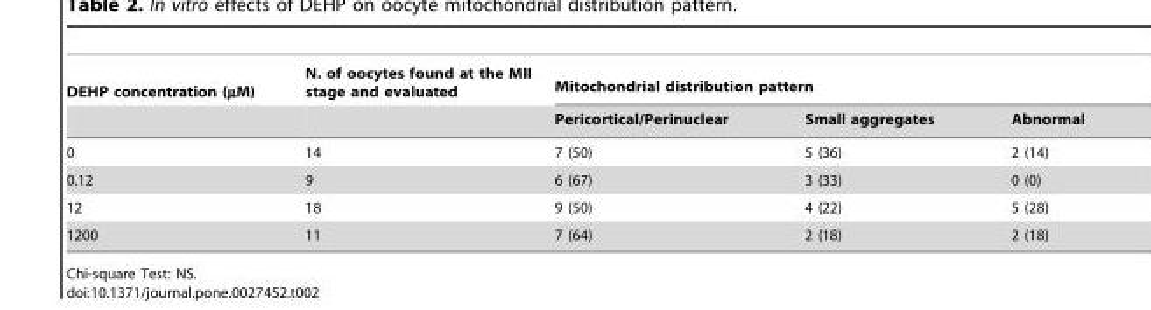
<table><thead><tr><td rowspan="2">DEHP concentration (µM)</td><td rowspan="2">N. of oocytes found at the MII stage and evaluated</td><td colspan="3">Mitochondrial distribution pattern</td></tr><tr><td>Pericortical/Perinuclear</td><td>Small aggregates</td><td>Abnormal</td></tr></thead><tbody><tr><td>0</td><td>14</td><td>7 (50)</td><td>5 (36)</td><td>2 (14)</td></tr><tr><td>0.12</td><td>9</td><td>6 (67)</td><td>3 (33)</td><td>0 (0)</td></tr><tr><td>12</td><td>18</td><td>9 (50)</td><td>4 (22)</td><td>5 (28)</td></tr><tr><td>1200</td><td>11</td><td>7 (64)</td><td>2 (18)</td><td>2 (18)</td></tr></tbody></table>